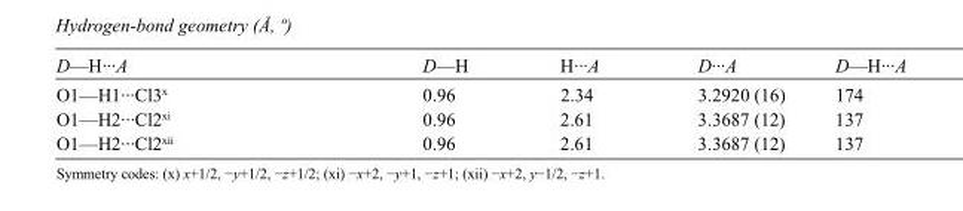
<table><tbody><tr><td>D—H···A</td><td>D—H</td><td>H···A</td><td>D···A</td><td>D—H···A</td></tr><tr><td>O1—H1···Cl3<sup>x</sup></td><td>0.96</td><td>2.34</td><td>3.2920 (16)</td><td>174</td></tr><tr><td>O1—H2···Cl2<sup>xi</sup></td><td>0.96</td><td>2.61</td><td>3.3687 (12)</td><td>137</td></tr><tr><td>O1—H2···Cl2<sup>xii</sup></td><td>0.96</td><td>2.61</td><td>3.3687 (12)</td><td>137</td></tr></tbody></table>